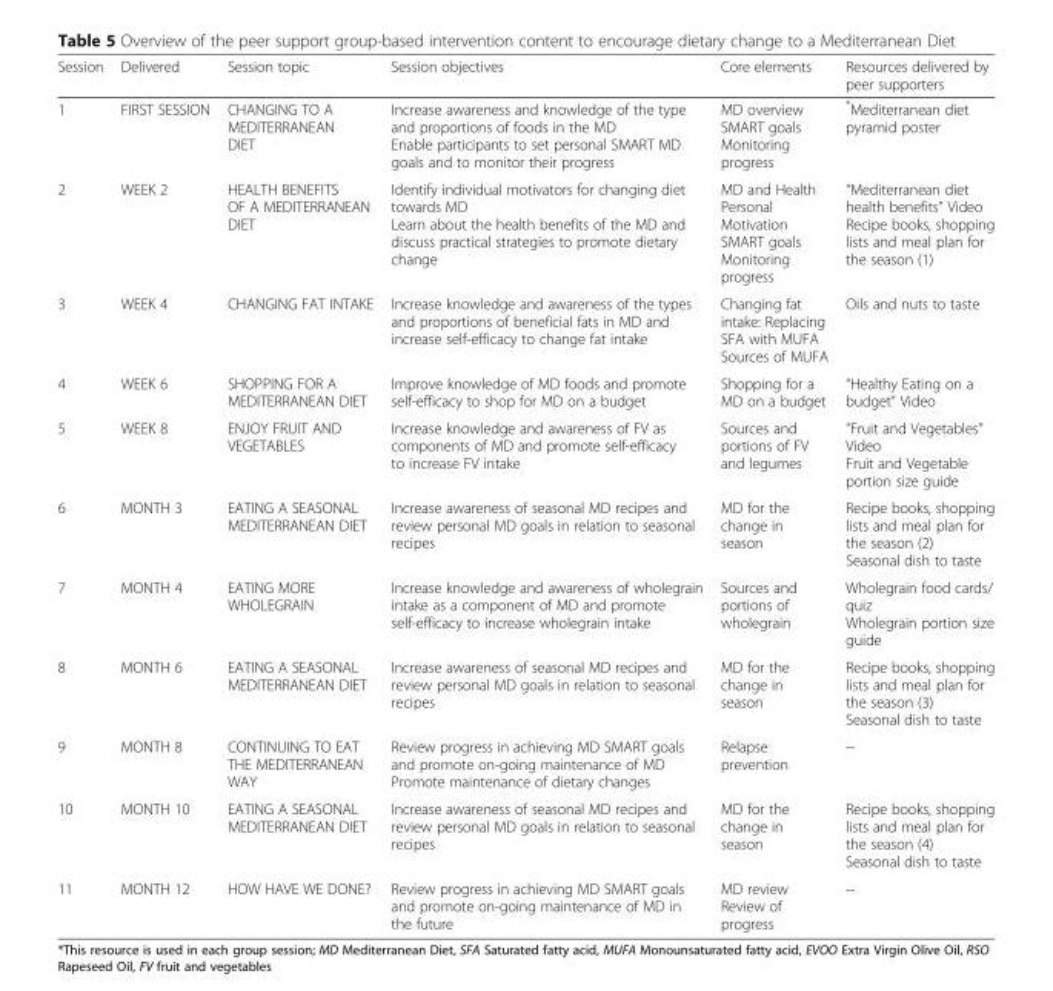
<table><thead><tr><td>Session</td><td>Delivered</td><td>Session topic</td><td>Session objectives</td><td>Core elements</td><td>Resources delivered by peer supporters</td></tr></thead><tbody><tr><td>1</td><td>FIRST SESSION</td><td>CHANGING TO A MEDITERRANEAN DIET</td><td>Increase awareness and knowledge of the type and proportions of foods in the MD Enable participants to set personal SMART MD goals and to monitor their progress</td><td>MD overview SMART goals Monitoring progress</td><td>*Mediterranean diet pyramid poster</td></tr><tr><td>2</td><td>WEEK 2</td><td>HEALTH BENEFITS OF A MEDITERRANEAN DIET</td><td>Identify individual motivators for changing diet towards MD Learn about the health benefits of the MD and discuss practical strategies to promote dietary change</td><td>MD and Health Personal Motivation SMART goals Monitoring progress</td><td>“Mediterranean diet health benefits” Video Recipe books, shopping lists and meal plan for the season (1)</td></tr><tr><td>3</td><td>WEEK 4</td><td>CHANGING FAT INTAKE</td><td>Increase knowledge and awareness of the types and proportions of beneficial fats in MD and increase self-efficacy to change fat intake</td><td>Changing fat intake: Replacing SFA with MUFA Sources of MUFA</td><td>Oils and nuts to taste</td></tr><tr><td>4</td><td>WEEK 6</td><td>SHOPPING FOR A MEDITERRANEAN DIET</td><td>Improve knowledge of MD foods and promote self-efficacy to shop for MD on a budget</td><td>Shopping for a MD on a budget</td><td>“Healthy Eating on a budget” Video</td></tr><tr><td>5</td><td>WEEK 8</td><td>ENJOY FRUIT AND VEGETABLES</td><td>Increase knowledge and awareness of FV as components of MD and promote self-efficacy to increase FV intake</td><td>Sources and portions of FV and legumes</td><td>“Fruit and Vegetables” Video Fruit and Vegetable portion size guide</td></tr><tr><td>6</td><td>MONTH 3</td><td>EATING A SEASONAL MEDITERRANEAN DIET</td><td>Increase awareness of seasonal MD recipes and review personal MD goals in relation to seasonal recipes</td><td>MD for the change in season</td><td>Recipe books, shopping lists and meal plan for the season (2) Seasonal dish to taste</td></tr><tr><td>7</td><td>MONTH 4</td><td>EATING MORE WHOLEGRAIN</td><td>Increase knowledge and awareness of wholegrain intake as a component of MD and promote self-efficacy to increase wholegrain intake</td><td>Sources and portions of wholegrain</td><td>Wholegrain food cards/ quiz Wholegrain portion size guide</td></tr><tr><td>8</td><td>MONTH 6</td><td>EATING A SEASONAL MEDITERRANEAN DIET</td><td>Increase awareness of seasonal MD recipes and review personal MD goals in relation to seasonal recipes</td><td>MD for the change in season</td><td>Recipe books, shopping lists and meal plan for the season (3) Seasonal dish to taste</td></tr><tr><td>9</td><td>MONTH 8</td><td>CONTINUING TO EAT THE MEDITERRANEAN WAY</td><td>Review progress in achieving MD SMART goals and promote on-going maintenance of MD Promote maintenance of dietary changes</td><td>Relapse prevention</td><td>--</td></tr><tr><td>10</td><td>MONTH 10</td><td>EATING A SEASONAL MEDITERRANEAN DIET</td><td>Increase awareness of seasonal MD recipes and review personal MD goals in relation to seasonal recipes</td><td>MD for the change in season</td><td>Recipe books, shopping lists and meal plan for the season (4) Seasonal dish to taste</td></tr><tr><td>11</td><td>MONTH 12</td><td>HOW HAVE WE DONE?</td><td>Review progress in achieving MD SMART goals and promote on-going maintenance of MD in the future</td><td>MD review Review of progress</td><td>--</td></tr></tbody></table>